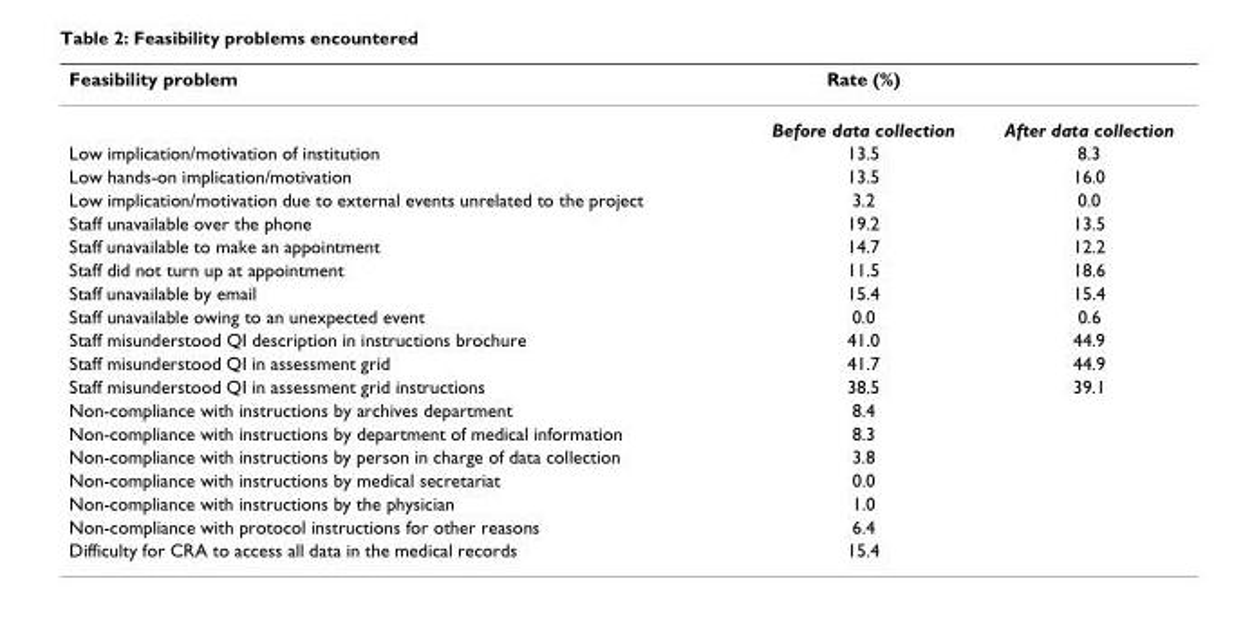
<table><thead><tr><td>Feasibility problem</td><td>Rate (%)</td><td></td></tr></thead><tbody><tr><td></td><td>Before data collection</td><td>After data collection</td></tr><tr><td>Low implication/motivation of institution</td><td>13.5</td><td>8.3</td></tr><tr><td>Low hands-on implication/motivation</td><td>13.5</td><td>16.0</td></tr><tr><td>Low implication/motivation due to external events unrelated to the project</td><td>3.2</td><td>0.0</td></tr><tr><td>Staff unavailable over the phone</td><td>19.2</td><td>13.5</td></tr><tr><td>Staff unavailable to make an appointment</td><td>14.7</td><td>12.2</td></tr><tr><td>Staff did not turn up at appointment</td><td>11.5</td><td>18.6</td></tr><tr><td>Staff unavailable by email</td><td>15.4</td><td>15.4</td></tr><tr><td>Staff unavailable owing to an unexpected event</td><td>0.0</td><td>0.6</td></tr><tr><td>Staff misunderstood QI description in instructions brochure</td><td>41.0</td><td>44.9</td></tr><tr><td>Staff misunderstood QI in assessment grid</td><td>41.7</td><td>44.9</td></tr><tr><td>Staff misunderstood QI in assessment grid instructions</td><td>38.5</td><td>39.1</td></tr><tr><td>Non-compliance with instructions by archives department</td><td>8.4</td><td></td></tr><tr><td>Non-compliance with instructions by department of medical information</td><td>8.3</td><td></td></tr><tr><td>Non-compliance with instructions by person in charge of data collection</td><td>3.8</td><td></td></tr><tr><td>Non-compliance with instructions by medical secretariat</td><td>0.0</td><td></td></tr><tr><td>Non-compliance with instructions by the physician</td><td>1.0</td><td></td></tr><tr><td>Non-compliance with protocol instructions for other reasons</td><td>6.4</td><td></td></tr><tr><td>Difficulty for CRA to access all data in the medical records</td><td>15.4</td><td></td></tr></tbody></table>